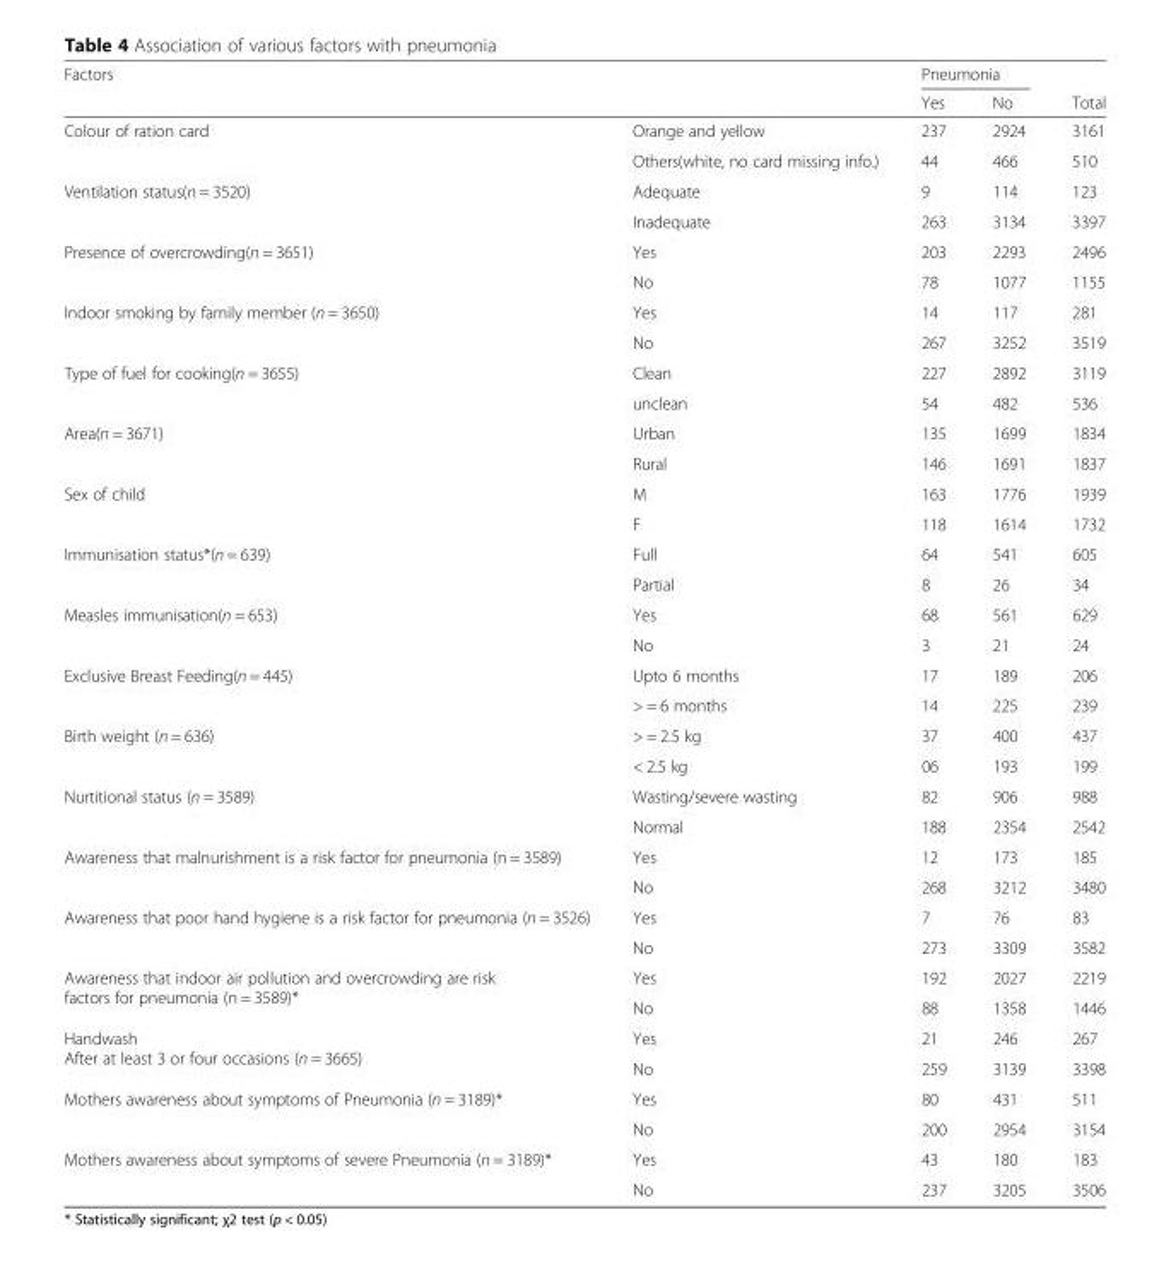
<table><thead><tr><td rowspan="2">Factors</td><td rowspan="2"></td><td colspan="2">Pneumonia</td><td rowspan="2">Total</td></tr><tr><td>Yes</td><td>No</td></tr></thead><tbody><tr><td rowspan="2">Colour of ration card</td><td>Orange and yellow</td><td>237</td><td>2924</td><td>3161</td></tr><tr><td>Others(white, no card missing info.)</td><td>44</td><td>466</td><td>510</td></tr><tr><td rowspan="2">Ventilation status(n = 3520)</td><td>Adequate</td><td>9</td><td>114</td><td>123</td></tr><tr><td>Inadequate</td><td>263</td><td>3134</td><td>3397</td></tr><tr><td rowspan="2">Presence of overcrowding(n = 3651)</td><td>Yes</td><td>203</td><td>2293</td><td>2496</td></tr><tr><td>No</td><td>78</td><td>1077</td><td>1155</td></tr><tr><td rowspan="2">Indoor smoking by family member (n = 3650)</td><td>Yes</td><td>14</td><td>117</td><td>281</td></tr><tr><td>No</td><td>267</td><td>3252</td><td>3519</td></tr><tr><td rowspan="2">Type of fuel for cooking(n = 3655)</td><td>Clean</td><td>227</td><td>2892</td><td>3119</td></tr><tr><td>unclean</td><td>54</td><td>482</td><td>536</td></tr><tr><td rowspan="2">Area(n = 3671)</td><td>Urban</td><td>135</td><td>1699</td><td>1834</td></tr><tr><td>Rural</td><td>146</td><td>1691</td><td>1837</td></tr><tr><td rowspan="2">Sex of child</td><td>M</td><td>163</td><td>1776</td><td>1939</td></tr><tr><td>F</td><td>118</td><td>1614</td><td>1732</td></tr><tr><td rowspan="2">Immunisation status*(n = 639)</td><td>Full</td><td>64</td><td>541</td><td>605</td></tr><tr><td>Partial</td><td>8</td><td>26</td><td>34</td></tr><tr><td rowspan="2">Measles immunisation(n = 653)</td><td>Yes</td><td>68</td><td>561</td><td>629</td></tr><tr><td>No</td><td>3</td><td>21</td><td>24</td></tr><tr><td rowspan="2">Exclusive Breast Feeding(n = 445)</td><td>Upto 6 months</td><td>17</td><td>189</td><td>206</td></tr><tr><td>&gt; = 6 months</td><td>14</td><td>225</td><td>239</td></tr><tr><td rowspan="2">Birth weight (n = 636)</td><td>&gt; = 2.5 kg</td><td>37</td><td>400</td><td>437</td></tr><tr><td>&lt; 2.5 kg</td><td>06</td><td>193</td><td>199</td></tr><tr><td rowspan="2">Nurtitional status (n = 3589)</td><td>Wasting/severe wasting</td><td>82</td><td>906</td><td>988</td></tr><tr><td>Normal</td><td>188</td><td>2354</td><td>2542</td></tr><tr><td rowspan="2">Awareness that malnurishment is a risk factor for pneumonia (n = 3589)</td><td>Yes</td><td>12</td><td>173</td><td>185</td></tr><tr><td>No</td><td>268</td><td>3212</td><td>3480</td></tr><tr><td rowspan="2">Awareness that poor hand hygiene is a risk factor for pneumonia (n = 3526)</td><td>Yes</td><td>7</td><td>76</td><td>83</td></tr><tr><td>No</td><td>273</td><td>3309</td><td>3582</td></tr><tr><td rowspan="2">Awareness that indoor air pollution and overcrowding are risk factors for pneumonia (n = 3589)*</td><td>Yes</td><td>192</td><td>2027</td><td>2219</td></tr><tr><td>No</td><td>88</td><td>1358</td><td>1446</td></tr><tr><td rowspan="2">Handwash After at least 3 or four occasions (n = 3665)</td><td>Yes</td><td>21</td><td>246</td><td>267</td></tr><tr><td>No</td><td>259</td><td>3139</td><td>3398</td></tr><tr><td rowspan="2">Mothers awareness about symptoms of Pneumonia (n = 3189)*</td><td>Yes</td><td>80</td><td>431</td><td>511</td></tr><tr><td>No</td><td>200</td><td>2954</td><td>3154</td></tr><tr><td rowspan="2">Mothers awareness about symptoms of severe Pneumonia (n = 3189)*</td><td>Yes</td><td>43</td><td>180</td><td>183</td></tr><tr><td>No</td><td>237</td><td>3205</td><td>3506</td></tr></tbody></table>